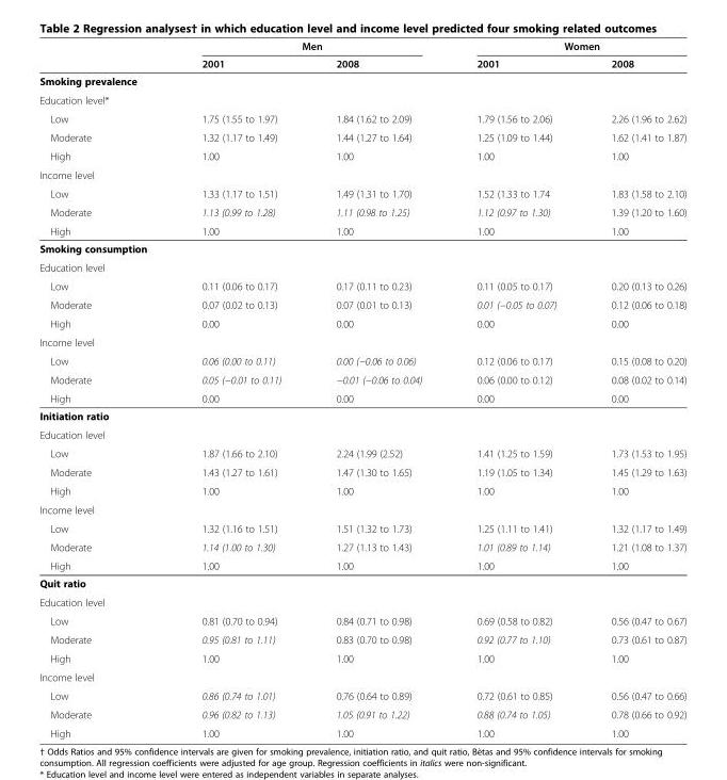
<table><thead><tr><td rowspan="2"></td><td rowspan="2">Men 2001</td><td rowspan="2">2008</td><td rowspan="2">Women 2001</td><td rowspan="2">2008</td></tr><tr></tr></thead><tbody><tr><td colspan="5">Smoking prevalence</td></tr><tr><td colspan="5">Education level*</td></tr><tr><td>Low</td><td>1.75 (1.55 to 1.97)</td><td>1.84 (1.62 to 2.09)</td><td>1.79 (1.56 to 2.06)</td><td>2.26 (1.96 to 2.62)</td></tr><tr><td>Moderate</td><td>1.32 (1.17 to 1.49)</td><td>1.44 (1.27 to 1.64)</td><td>1.25 (1.09 to 1.44)</td><td>1.62 (1.41 to 1.87)</td></tr><tr><td>High</td><td>1.00</td><td>1.00</td><td>1.00</td><td>1.00</td></tr><tr><td colspan="5">Income level</td></tr><tr><td>Low</td><td>1.33 (1.17 to 1.51)</td><td>1.49 (1.31 to 1.70)</td><td>1.52 (1.33 to 1.74</td><td>1.83 (1.58 to 2.10)</td></tr><tr><td>Moderate</td><td>1.13 (0.99 to 1.28)</td><td>1.11 (0.98 to 1.25)</td><td>1.12 (0.97 to 1.30)</td><td>1.39 (1.20 to 1.60)</td></tr><tr><td>High</td><td>1.00</td><td>1.00</td><td>1.00</td><td>1.00</td></tr><tr><td colspan="5">Smoking consumption</td></tr><tr><td colspan="5">Education level</td></tr><tr><td>Low</td><td>0.11 (0.06 to 0.17)</td><td>0.17 (0.11 to 0.23)</td><td>0.11 (0.05 to 0.17)</td><td>0.20 (0.13 to 0.26)</td></tr><tr><td>Moderate</td><td>0.07 (0.02 to 0.13)</td><td>0.07 (0.01 to 0.13)</td><td>0.01 (−0.05 to 0.07)</td><td>0.12 (0.06 to 0.18)</td></tr><tr><td>High</td><td>0.00</td><td>0.00</td><td>0.00</td><td>0.00</td></tr><tr><td colspan="5">Income level</td></tr><tr><td>Low</td><td>0.06 (0.00 to 0.11)</td><td>0.00 (−0.06 to 0.06)</td><td>0.12 (0.06 to 0.17)</td><td>0.15 (0.08 to 0.20)</td></tr><tr><td>Moderate</td><td>0.05 (−0.01 to 0.11)</td><td>−0.01 (−0.06 to 0.04)</td><td>0.06 (0.00 to 0.12)</td><td>0.08 (0.02 to 0.14)</td></tr><tr><td>High</td><td>0.00</td><td>0.00</td><td>0.00</td><td>0.00</td></tr><tr><td colspan="5">Initiation ratio</td></tr><tr><td colspan="5">Education level</td></tr><tr><td>Low</td><td>1.87 (1.66 to 2.10)</td><td>2.24 (1.99 (2.52)</td><td>1.41 (1.25 to 1.59)</td><td>1.73 (1.53 to 1.95)</td></tr><tr><td>Moderate</td><td>1.43 (1.27 to 1.61)</td><td>1.47 (1.30 to 1.65)</td><td>1.19 (1.05 to 1.34)</td><td>1.45 (1.29 to 1.63)</td></tr><tr><td>High</td><td>1.00</td><td>1.00</td><td>1.00</td><td>1.00</td></tr><tr><td colspan="5">Income level</td></tr><tr><td>Low</td><td>1.32 (1.16 to 1.51)</td><td>1.51 (1.32 to 1.73)</td><td>1.25 (1.11 to 1.41)</td><td>1.32 (1.17 to 1.49)</td></tr><tr><td>Moderate</td><td>1.14 (1.00 to 1.30)</td><td>1.27 (1.13 to 1.43)</td><td>1.01 (0.89 to 1.14)</td><td>1.21 (1.08 to 1.37)</td></tr><tr><td>High</td><td>1.00</td><td>1.00</td><td>1.00</td><td>1.00</td></tr><tr><td colspan="5">Quit ratio</td></tr><tr><td colspan="5">Education level</td></tr><tr><td>Low</td><td>0.81 (0.70 to 0.94)</td><td>0.84 (0.71 to 0.98)</td><td>0.69 (0.58 to 0.82)</td><td>0.56 (0.47 to 0.67)</td></tr><tr><td>Moderate</td><td>0.95 (0.81 to 1.11)</td><td>0.83 (0.70 to 0.98)</td><td>0.92 (0.77 to 1.10)</td><td>0.73 (0.61 to 0.87)</td></tr><tr><td>High</td><td>1.00</td><td>1.00</td><td>1.00</td><td>1.00</td></tr><tr><td colspan="5">Income level</td></tr><tr><td>Low</td><td>0.86 (0.74 to 1.01)</td><td>0.76 (0.64 to 0.89)</td><td>0.72 (0.61 to 0.85)</td><td>0.56 (0.47 to 0.66)</td></tr><tr><td>Moderate</td><td>0.96 (0.82 to 1.13)</td><td>1.05 (0.91 to 1.22)</td><td>0.88 (0.74 to 1.05)</td><td>0.78 (0.66 to 0.92)</td></tr><tr><td>High</td><td>1.00</td><td>1.00</td><td>1.00</td><td>1.00</td></tr></tbody></table>